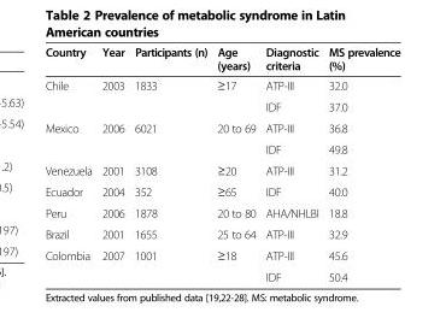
<table><thead><tr><td>Country</td><td>Year</td><td>Participants (n)</td><td>Age (years)</td><td>Diagnostic criteria</td><td>MS prevalence (%)</td></tr></thead><tbody><tr><td rowspan="2">Chile</td><td rowspan="2">2003</td><td rowspan="2">1833</td><td rowspan="2">≥17</td><td>ATP-III</td><td>32.0</td></tr><tr><td>IDF</td><td>37.0</td></tr><tr><td rowspan="2">Mexico</td><td rowspan="2">2006</td><td rowspan="2">6021</td><td rowspan="2">20 to 69</td><td>ATP-III</td><td>36.8</td></tr><tr><td>IDF</td><td>49.8</td></tr><tr><td>Venezuela</td><td>2001</td><td>3108</td><td>≥20</td><td>ATP-III</td><td>31.2</td></tr><tr><td>Ecuador</td><td>2004</td><td>352</td><td>≥65</td><td>IDF</td><td>40.0</td></tr><tr><td>Peru</td><td>2006</td><td>1878</td><td>20 to 80</td><td>AHA/NHLBI</td><td>18.8</td></tr><tr><td>Brazil</td><td>2001</td><td>1655</td><td>25 to 64</td><td>ATP-III</td><td>32.9</td></tr><tr><td rowspan="2">Colombia</td><td rowspan="2">2007</td><td rowspan="2">1001</td><td rowspan="2">≥18</td><td>ATP-III</td><td>45.6</td></tr><tr><td>IDF</td><td>50.4</td></tr></tbody></table>